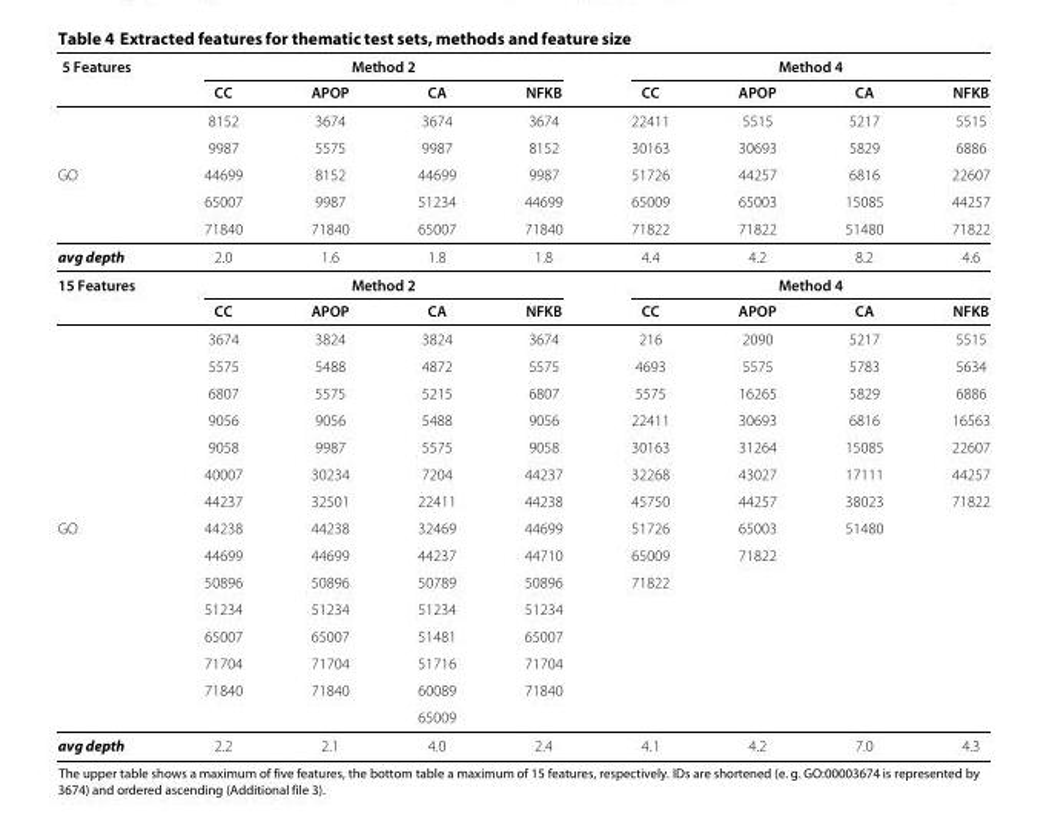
<table><thead><tr><td rowspan="2">5 Features</td><td colspan="4">Method 2</td><td colspan="4">Method 4</td></tr><tr><td>CC</td><td>APOP</td><td>CA</td><td>NFKB</td><td>CC</td><td>APOP</td><td>CA</td><td>NFKB</td></tr></thead><tbody><tr><td></td><td>8152</td><td>3674</td><td>3674</td><td>3674</td><td>22411</td><td>5515</td><td>5217</td><td>5515</td></tr><tr><td></td><td>9987</td><td>5575</td><td>9987</td><td>8152</td><td>30163</td><td>30693</td><td>5829</td><td>6886</td></tr><tr><td rowspan="3">GO</td><td>44699</td><td>8152</td><td>44699</td><td>9987</td><td>51726</td><td>44257</td><td>6816</td><td>22607</td></tr><tr><td>65007</td><td>9987</td><td>51234</td><td>44699</td><td>65009</td><td>65003</td><td>15085</td><td>44257</td></tr><tr><td>71840</td><td>71840</td><td>65007</td><td>71840</td><td>71822</td><td>71822</td><td>51480</td><td>71822</td></tr><tr><td>avg depth</td><td>2.0</td><td>1.6</td><td>1.8</td><td>1.8</td><td>4.4</td><td>4.2</td><td>8.2</td><td>4.6</td></tr><tr><td rowspan="9">15 Features</td><td colspan="4">Method 2</td><td colspan="4">Method 4</td></tr><tr><td>CC</td><td>APOP</td><td>CA</td><td>NFKB</td><td>CC</td><td>APOP</td><td>CA</td><td>NFKB</td></tr><tr><td>3674</td><td>3824</td><td>3824</td><td>3674</td><td>216</td><td>2090</td><td>5217</td><td>5515</td></tr><tr><td>5575</td><td>5488</td><td>4872</td><td>5575</td><td>4693</td><td>5575</td><td>5783</td><td>5634</td></tr><tr><td>6807</td><td>5575</td><td>5215</td><td>6807</td><td>5575</td><td>16265</td><td>5829</td><td>6886</td></tr><tr><td>9056</td><td>9056</td><td>5488</td><td>9056</td><td>22411</td><td>30693</td><td>6816</td><td>16563</td></tr><tr><td>9058</td><td>9987</td><td>5575</td><td>9058</td><td>30163</td><td>31264</td><td>15085</td><td>22607</td></tr><tr><td>40007</td><td>30234</td><td>7204</td><td>44237</td><td>32268</td><td>43027</td><td>17111</td><td>44257</td></tr><tr><td>44237</td><td>32501</td><td>22411</td><td>44238</td><td>45750</td><td>44257</td><td>38023</td><td>71822</td></tr><tr><td rowspan="8">GO</td><td>44238</td><td>44238</td><td>32469</td><td>44699</td><td>51726</td><td>65003</td><td>51480</td><td></td></tr><tr><td>44699</td><td>44699</td><td>44237</td><td>44710</td><td>65009</td><td>71822</td><td></td><td></td></tr><tr><td>50896</td><td>50896</td><td>50789</td><td>50896</td><td>71822</td><td></td><td></td><td></td></tr><tr><td>51234</td><td>51234</td><td>51234</td><td>51234</td><td></td><td></td><td></td><td></td></tr><tr><td>65007</td><td>65007</td><td>51481</td><td>65007</td><td></td><td></td><td></td><td></td></tr><tr><td>71704</td><td>71704</td><td>51716</td><td>71704</td><td></td><td></td><td></td><td></td></tr><tr><td>71840</td><td>71840</td><td>60089</td><td>71840</td><td></td><td></td><td></td><td></td></tr><tr><td></td><td></td><td>65009</td><td></td><td></td><td></td><td></td><td></td></tr><tr><td>avg depth</td><td>2.2</td><td>2.1</td><td>4.0</td><td>2.4</td><td>4.1</td><td>4.2</td><td>7.0</td><td>4.3</td></tr></tbody></table>